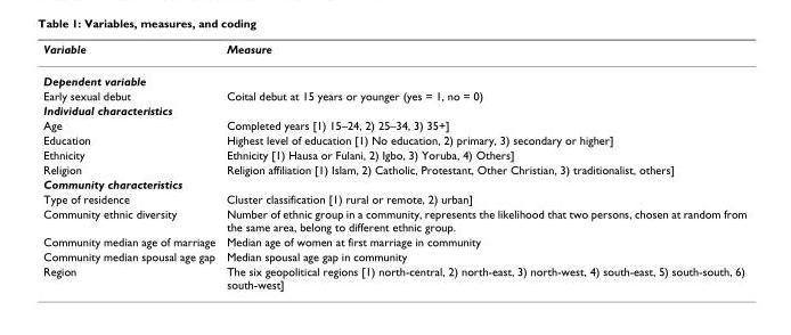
<table><thead><tr><td>Variable</td><td>Measure</td></tr></thead><tbody><tr><td colspan="2">Dependent variable</td></tr><tr><td>Early sexual debut</td><td>Coital debut at 15 years or younger (yes = 1, no = 0)</td></tr><tr><td colspan="2">Individual characteristics</td></tr><tr><td>Age</td><td>Completed years [1) 15–24, 2) 25–34, 3) 35+]</td></tr><tr><td>Education</td><td>Highest level of education [1) No education, 2) primary, 3) secondary or higher]</td></tr><tr><td>Ethnicity</td><td>Ethnicity [1) Hausa or Fulani, 2) Igbo, 3) Yoruba, 4) Others]</td></tr><tr><td>Religion</td><td>Religion affiliation [1) Islam, 2) Catholic, Protestant, Other Christian, 3) traditionalist, others]</td></tr><tr><td colspan="2">Community characteristics</td></tr><tr><td>Type of residence</td><td>Cluster classification [1) rural or remote, 2) urban]</td></tr><tr><td>Community ethnic diversity</td><td>Number of ethnic group in a community, represents the likelihood that two persons, chosen at random from the same area, belong to different ethnic group.</td></tr><tr><td>Community median age of marriage</td><td>Median age of women at first marriage in community</td></tr><tr><td>Community median spousal age gap</td><td>Median spousal age gap in community</td></tr><tr><td>Region</td><td>The six geopolitical regions [1) north-central, 2) north-east, 3) north-west, 4) south-east, 5) south-south, 6) south-west]</td></tr></tbody></table>